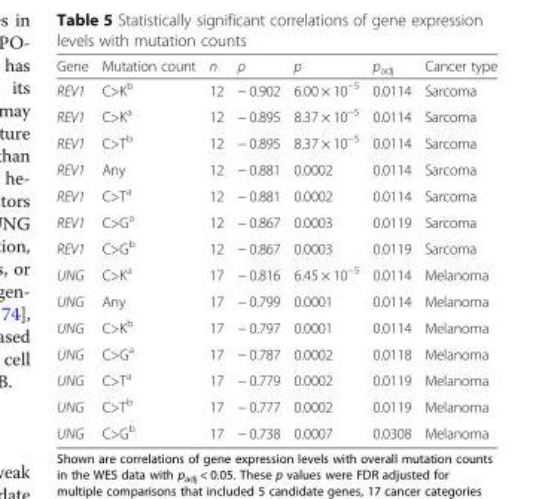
<table><thead><tr><td>Gene</td><td>Mutation count</td><td>n</td><td>ρ</td><td>p</td><td>p<sub>adj</sub></td><td>Cancer type</td></tr></thead><tbody><tr><td>REV1</td><td>C&gt;K<sup>b</sup></td><td>12</td><td>− 0.902</td><td>6.00 × 10<sup>−5</sup></td><td>0.0114</td><td>Sarcoma</td></tr><tr><td>REV1</td><td>C&gt;K<sup>a</sup></td><td>12</td><td>− 0.895</td><td>8.37 × 10<sup>−5</sup></td><td>0.0114</td><td>Sarcoma</td></tr><tr><td>REV1</td><td>C&gt;T<sup>b</sup></td><td>12</td><td>− 0.895</td><td>8.37 × 10<sup>−5</sup></td><td>0.0114</td><td>Sarcoma</td></tr><tr><td>REV1</td><td>Any</td><td>12</td><td>− 0.881</td><td>0.0002</td><td>0.0114</td><td>Sarcoma</td></tr><tr><td>REV1</td><td>C&gt;T<sup>a</sup></td><td>12</td><td>− 0.881</td><td>0.0002</td><td>0.0114</td><td>Sarcoma</td></tr><tr><td>REV1</td><td>C&gt;G<sup>a</sup></td><td>12</td><td>− 0.867</td><td>0.0003</td><td>0.0119</td><td>Sarcoma</td></tr><tr><td>REV1</td><td>C&gt;G<sup>b</sup></td><td>12</td><td>− 0.867</td><td>0.0003</td><td>0.0119</td><td>Sarcoma</td></tr><tr><td>UNG</td><td>C&gt;K<sup>a</sup></td><td>17</td><td>− 0.816</td><td>6.45 × 10<sup>−5</sup></td><td>0.0114</td><td>Melanoma</td></tr><tr><td>UNG</td><td>Any</td><td>17</td><td>− 0.799</td><td>0.0001</td><td>0.0114</td><td>Melanoma</td></tr><tr><td>UNG</td><td>C&gt;K<sup>b</sup></td><td>17</td><td>− 0.797</td><td>0.0001</td><td>0.0114</td><td>Melanoma</td></tr><tr><td>UNG</td><td>C&gt;G<sup>a</sup></td><td>17</td><td>− 0.787</td><td>0.0002</td><td>0.0118</td><td>Melanoma</td></tr><tr><td>UNG</td><td>C&gt;T<sup>a</sup></td><td>17</td><td>− 0.779</td><td>0.0002</td><td>0.0119</td><td>Melanoma</td></tr><tr><td>UNG</td><td>C&gt;T<sup>b</sup></td><td>17</td><td>− 0.777</td><td>0.0002</td><td>0.0119</td><td>Melanoma</td></tr><tr><td>UNG</td><td>C&gt;G<sup>b</sup></td><td>17</td><td>− 0.738</td><td>0.0007</td><td>0.0308</td><td>Melanoma</td></tr></tbody></table>